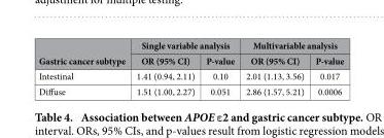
<table><thead><tr><td rowspan="2">Gastric cancer subtype</td><td colspan="2">Single variable analysis</td><td colspan="2">Multivariable analysis</td></tr><tr><td>OR (95% CI)</td><td>P-value</td><td>OR (95% CI)</td><td>P-value</td></tr></thead><tbody><tr><td>Intestinal</td><td>1.41 (0.94, 2.11)</td><td>0.10</td><td>2.01 (1.13, 3.56)</td><td>0.017</td></tr><tr><td>Diffuse</td><td>1.51 (1.00, 2.27)</td><td>0.051</td><td>2.86 (1.57, 5.21)</td><td>0.0006</td></tr></tbody></table>